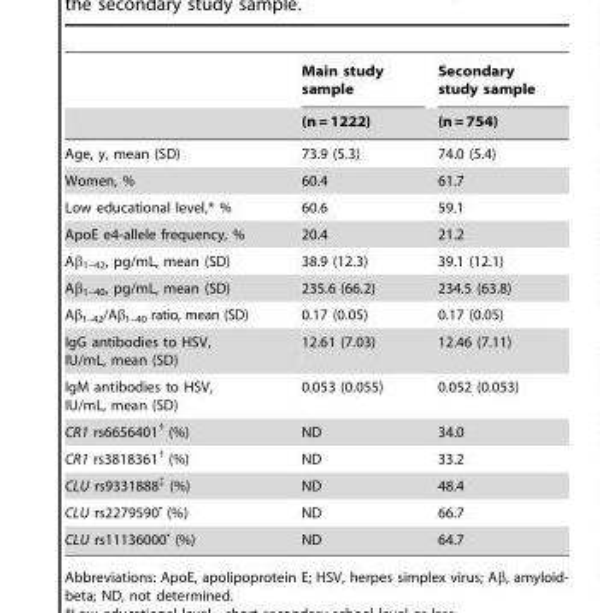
<table><thead><tr><td rowspan="2"></td><td rowspan="2">Main study sample (n = 1222)</td><td rowspan="2">Secondary study sample (n = 754)</td></tr><tr></tr></thead><tbody><tr><td>Age, y, mean (SD)</td><td>73.9 (5.3)</td><td>74.0 (5.4)</td></tr><tr><td>Women, %</td><td>60.4</td><td>61.7</td></tr><tr><td>Low educational level,* %</td><td>60.6</td><td>59.1</td></tr><tr><td>ApoE e4-allele frequency, %</td><td>20.4</td><td>21.2</td></tr><tr><td>Aβ<sub>1–42</sub>, pg/mL, mean (SD)</td><td>38.9 (12.3)</td><td>39.1 (12.1)</td></tr><tr><td>Aβ<sub>1–40</sub>, pg/mL, mean (SD)</td><td>235.6 (66.2)</td><td>234.5 (63.8)</td></tr><tr><td>Aβ<sub>1–42</sub>/Aβ<sub>1–40</sub> ratio, mean (SD)</td><td>0.17 (0.05)</td><td>0.17 (0.05)</td></tr><tr><td>IgG antibodies to HSV, IU/mL, mean (SD)</td><td>12.61 (7.03)</td><td>12.46 (7.11)</td></tr><tr><td>IgM antibodies to HSV, IU/mL, mean (SD)</td><td>0.053 (0.055)</td><td>0.052 (0.053)</td></tr><tr><td>CR1 rs6656401† (%)</td><td>ND</td><td>34.0</td></tr><tr><td>CR1 rs3818361† (%)</td><td>ND</td><td>33.2</td></tr><tr><td>CLU rs9331888‡ (%)</td><td>ND</td><td>48.4</td></tr><tr><td>CLU rs2279590• (%)</td><td>ND</td><td>66.7</td></tr><tr><td>CLU rs11136000• (%)</td><td>ND</td><td>64.7</td></tr></tbody></table>